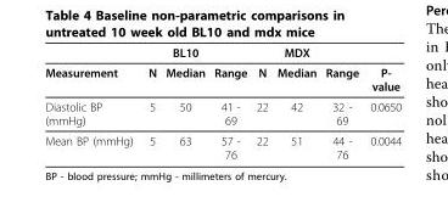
<table><thead><tr><td></td><td></td><td>BL10</td><td></td><td></td><td>MDX</td><td></td><td></td></tr></thead><tbody><tr><td>Measurement</td><td>N</td><td>Median</td><td>Range</td><td>N</td><td>Median</td><td>Range</td><td>P- value</td></tr><tr><td>Diastolic BP (mmHg)</td><td>5</td><td>50</td><td>41 - 69</td><td>22</td><td>42</td><td>32 - 69</td><td>0.0650</td></tr><tr><td>Mean BP (mmHg)</td><td>5</td><td>63</td><td>57 - 76</td><td>22</td><td>51</td><td>44 - 76</td><td>0.0044</td></tr></tbody></table>